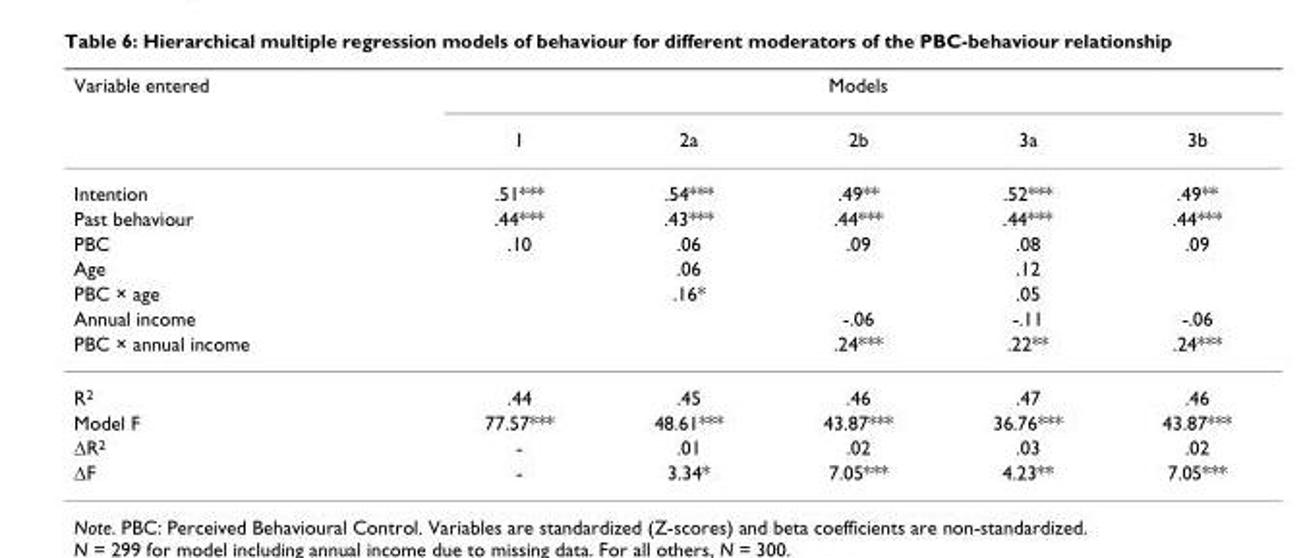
<table><thead><tr><td rowspan="2">Variable entered</td><td colspan="5">Models</td></tr><tr><td>1</td><td>2a</td><td>2b</td><td>3a</td><td>3b</td></tr></thead><tbody><tr><td>Intention</td><td>.51***</td><td>.54***</td><td>.49**</td><td>.52***</td><td>.49**</td></tr><tr><td>Past behaviour</td><td>.44***</td><td>.43***</td><td>.44***</td><td>.44***</td><td>.44***</td></tr><tr><td>PBC</td><td>.10</td><td>.06</td><td>.09</td><td>.08</td><td>.09</td></tr><tr><td>Age</td><td></td><td>.06</td><td></td><td>.12</td><td></td></tr><tr><td>PBC × age</td><td></td><td>.16*</td><td></td><td>.05</td><td></td></tr><tr><td>Annual income</td><td></td><td></td><td>-.06</td><td>-.11</td><td>-.06</td></tr><tr><td>PBC × annual income</td><td></td><td></td><td>.24***</td><td>.22**</td><td>.24***</td></tr><tr><td>R<sup>2</sup></td><td>.44</td><td>.45</td><td>.46</td><td>.47</td><td>.46</td></tr><tr><td>Model F</td><td>77.57***</td><td>48.61***</td><td>43.87***</td><td>36.76***</td><td>43.87***</td></tr><tr><td>∆R2</td><td>-</td><td>.01</td><td>.02</td><td>.03</td><td>.02</td></tr><tr><td>∆F</td><td>-</td><td>3.34*</td><td>7.05***</td><td>4.23**</td><td>7.05***</td></tr></tbody></table>